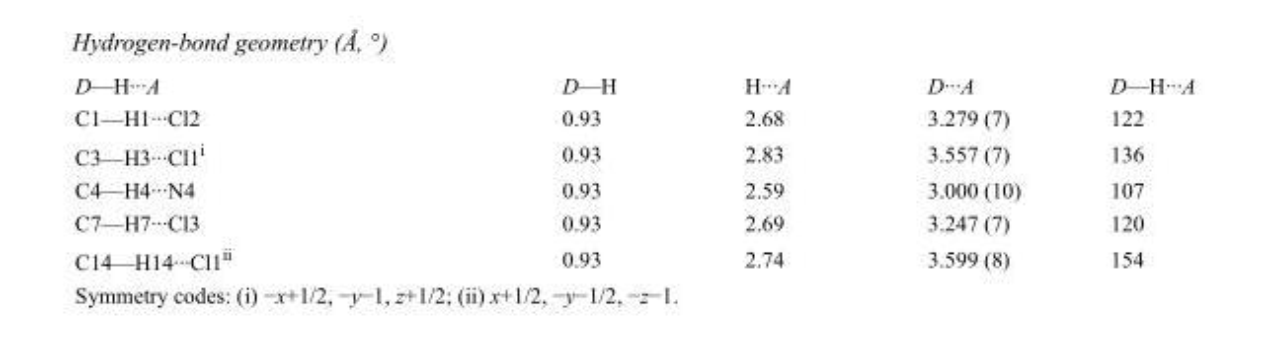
<table><tbody><tr><td>D—H···A</td><td>D—H</td><td>H···A</td><td>D···A</td><td>D—H···A</td></tr><tr><td>C1—H1···Cl2</td><td>0.93</td><td>2.68</td><td>3.279 (7)</td><td>122</td></tr><tr><td>C3—H3···Cl1<sup>i</sup></td><td>0.93</td><td>2.83</td><td>3.557 (7)</td><td>136</td></tr><tr><td>C4—H4···N4</td><td>0.93</td><td>2.59</td><td>3.000 (10)</td><td>107</td></tr><tr><td>C7—H7···Cl3</td><td>0.93</td><td>2.69</td><td>3.247 (7)</td><td>120</td></tr><tr><td>C14—H14···Cl1<sup>ii</sup></td><td>0.93</td><td>2.74</td><td>3.599 (8)</td><td>154</td></tr></tbody></table>